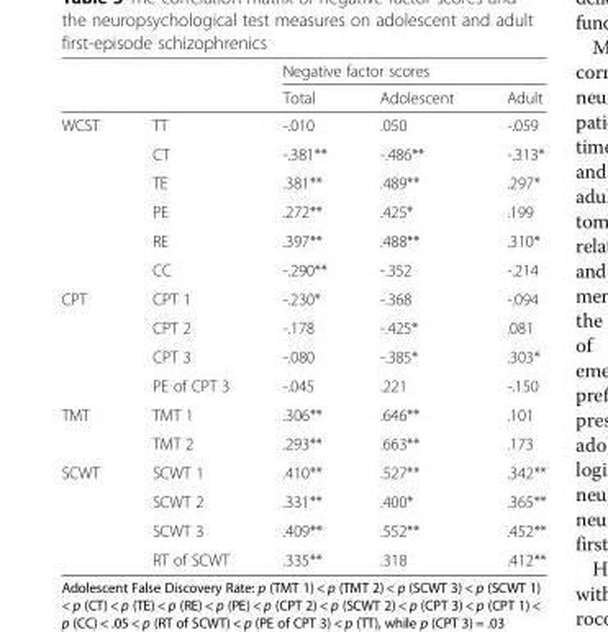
<table><thead><tr><td rowspan="2"></td><td rowspan="2"></td><td colspan="3">Negative factor scores</td></tr><tr><td>Total</td><td>Adolescent</td><td>Adult</td></tr></thead><tbody><tr><td rowspan="6">WCST</td><td>TT</td><td>-.010</td><td>.050</td><td>-.059</td></tr><tr><td>CT</td><td>-.381**</td><td>-.486**</td><td>-.313*</td></tr><tr><td>TE</td><td>.381**</td><td>.489**</td><td>.297*</td></tr><tr><td>PE</td><td>.272**</td><td>.425*</td><td>.199</td></tr><tr><td>RE</td><td>.397**</td><td>.488**</td><td>.310*</td></tr><tr><td>CC</td><td>-.290**</td><td>-.352</td><td>-.214</td></tr><tr><td rowspan="4">CPT</td><td>CPT 1</td><td>-.230*</td><td>-.368</td><td>-.094</td></tr><tr><td>CPT 2</td><td>-.178</td><td>-.425*</td><td>.081</td></tr><tr><td>CPT 3</td><td>-.080</td><td>-.385*</td><td>.303*</td></tr><tr><td>PE of CPT 3</td><td>-.045</td><td>.221</td><td>-.150</td></tr><tr><td rowspan="2">TMT</td><td>TMT 1</td><td>.306**</td><td>.646**</td><td>.101</td></tr><tr><td>TMT 2</td><td>.293**</td><td>.663**</td><td>.173</td></tr><tr><td rowspan="4">SCWT</td><td>SCWT 1</td><td>.410**</td><td>.527**</td><td>.342**</td></tr><tr><td>SCWT 2</td><td>.331**</td><td>.400*</td><td>.365**</td></tr><tr><td>SCWT 3</td><td>.409**</td><td>.552**</td><td>.452**</td></tr><tr><td>RT of SCWT</td><td>.335**</td><td>.318</td><td>.412**</td></tr></tbody></table>